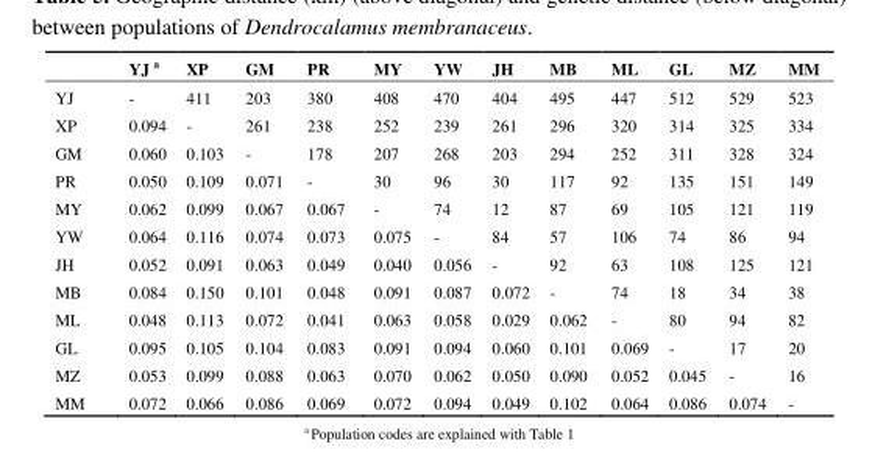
<table><thead><tr><td></td><td>YJ a</td><td>XP</td><td>GM</td><td>PR</td><td>MY</td><td>YW</td><td>JH</td><td>MB</td><td>ML</td><td>GL</td><td>MZ</td><td>MM</td></tr></thead><tbody><tr><td>YJ</td><td>-</td><td>411</td><td>203</td><td>380</td><td>408</td><td>470</td><td>404</td><td>495</td><td>447</td><td>512</td><td>529</td><td>523</td></tr><tr><td>XP</td><td>0.094</td><td>-</td><td>261</td><td>238</td><td>252</td><td>239</td><td>261</td><td>296</td><td>320</td><td>314</td><td>325</td><td>334</td></tr><tr><td>GM</td><td>0.060</td><td>0.103</td><td>-</td><td>178</td><td>207</td><td>268</td><td>203</td><td>294</td><td>252</td><td>311</td><td>328</td><td>324</td></tr><tr><td>PR</td><td>0.050</td><td>0.109</td><td>0.071</td><td>-</td><td>30</td><td>96</td><td>30</td><td>117</td><td>92</td><td>135</td><td>151</td><td>149</td></tr><tr><td>MY</td><td>0.062</td><td>0.099</td><td>0.067</td><td>0.067</td><td>-</td><td>74</td><td>12</td><td>87</td><td>69</td><td>105</td><td>121</td><td>119</td></tr><tr><td>YW</td><td>0.064</td><td>0.116</td><td>0.074</td><td>0.073</td><td>0.075</td><td>-</td><td>84</td><td>57</td><td>106</td><td>74</td><td>86</td><td>94</td></tr><tr><td>JH</td><td>0.052</td><td>0.091</td><td>0.063</td><td>0.049</td><td>0.040</td><td>0.056</td><td>-</td><td>92</td><td>63</td><td>108</td><td>125</td><td>121</td></tr><tr><td>MB</td><td>0.084</td><td>0.150</td><td>0.101</td><td>0.048</td><td>0.091</td><td>0.087</td><td>0.072</td><td>-</td><td>74</td><td>18</td><td>34</td><td>38</td></tr><tr><td>ML</td><td>0.048</td><td>0.113</td><td>0.072</td><td>0.041</td><td>0.063</td><td>0.058</td><td>0.029</td><td>0.062</td><td>-</td><td>80</td><td>94</td><td>82</td></tr><tr><td>GL</td><td>0.095</td><td>0.105</td><td>0.104</td><td>0.083</td><td>0.091</td><td>0.094</td><td>0.060</td><td>0.101</td><td>0.069</td><td>-</td><td>17</td><td>20</td></tr><tr><td>MZ</td><td>0.053</td><td>0.099</td><td>0.088</td><td>0.063</td><td>0.070</td><td>0.062</td><td>0.050</td><td>0.090</td><td>0.052</td><td>0.045</td><td>-</td><td>16</td></tr><tr><td>MM</td><td>0.072</td><td>0.066</td><td>0.086</td><td>0.069</td><td>0.072</td><td>0.094</td><td>0.049</td><td>0.102</td><td>0.064</td><td>0.086</td><td>0.074</td><td>-</td></tr></tbody></table>